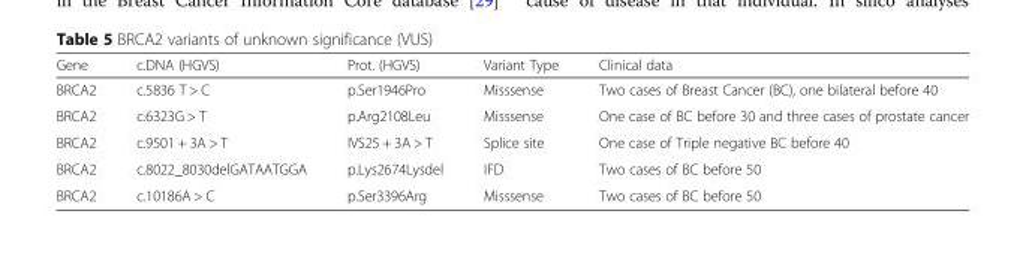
<table><thead><tr><td>Gene</td><td>c.DNA (HGVS)</td><td>Prot. (HGVS)</td><td>Variant Type</td><td>Clinical data</td></tr></thead><tbody><tr><td>BRCA2</td><td>c.5836 T &gt; C</td><td>p.Ser1946Pro</td><td>Misssense</td><td>Two cases of Breast Cancer (BC), one bilateral before 40</td></tr><tr><td>BRCA2</td><td>c.6323G &gt; T</td><td>p.Arg2108Leu</td><td>Misssense</td><td>One case of BC before 30 and three cases of prostate cancer</td></tr><tr><td>BRCA2</td><td>c.9501 + 3A &gt; T</td><td>IVS25 + 3A &gt; T</td><td>Splice site</td><td>One case of Triple negative BC before 40</td></tr><tr><td>BRCA2</td><td>c.8022_8030delGATAATGGA</td><td>p.Lys2674Lysdel</td><td>IFD</td><td>Two cases of BC before 50</td></tr><tr><td>BRCA2</td><td>c.10186A &gt; C</td><td>p.Ser3396Arg</td><td>Misssense</td><td>Two cases of BC before 50</td></tr></tbody></table>